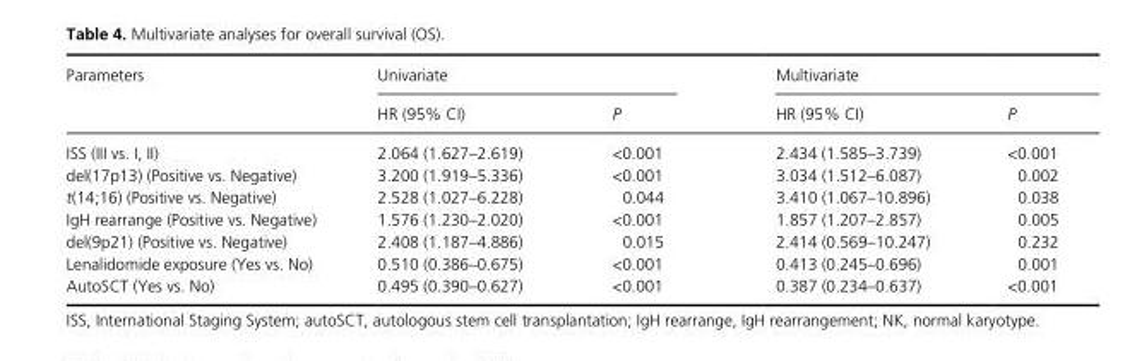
<table><thead><tr><td rowspan="2">Parameters</td><td colspan="2">Univariate</td><td colspan="2">Multivariate</td></tr><tr><td>HR (95% CI)</td><td>P</td><td>HR (95% CI)</td><td>P</td></tr></thead><tbody><tr><td>ISS (III vs. I, II)</td><td>2.064 (1.627–2.619)</td><td>&lt;0.001</td><td>2.434 (1.585–3.739)</td><td>&lt;0.001</td></tr><tr><td>del(17p13) (Positive vs. Negative)</td><td>3.200 (1.919–5.336)</td><td>&lt;0.001</td><td>3.034 (1.512–6.087)</td><td>0.002</td></tr><tr><td>t(14;16) (Positive vs. Negative)</td><td>2.528 (1.027–6.228)</td><td>0.044</td><td>3.410 (1.067–10.896)</td><td>0.038</td></tr><tr><td>IgH rearrange (Positive vs. Negative)</td><td>1.576 (1.230–2.020)</td><td>&lt;0.001</td><td>1.857 (1.207–2.857)</td><td>0.005</td></tr><tr><td>del(9p21) (Positive vs. Negative)</td><td>2.408 (1.187–4.886)</td><td>0.015</td><td>2.414 (0.569–10.247)</td><td>0.232</td></tr><tr><td>Lenalidomide exposure (Yes vs. No)</td><td>0.510 (0.386–0.675)</td><td>&lt;0.001</td><td>0.413 (0.245–0.696)</td><td>0.001</td></tr><tr><td>AutoSCT (Yes vs. No)</td><td>0.495 (0.390–0.627)</td><td>&lt;0.001</td><td>0.387 (0.234–0.637)</td><td>&lt;0.001</td></tr></tbody></table>